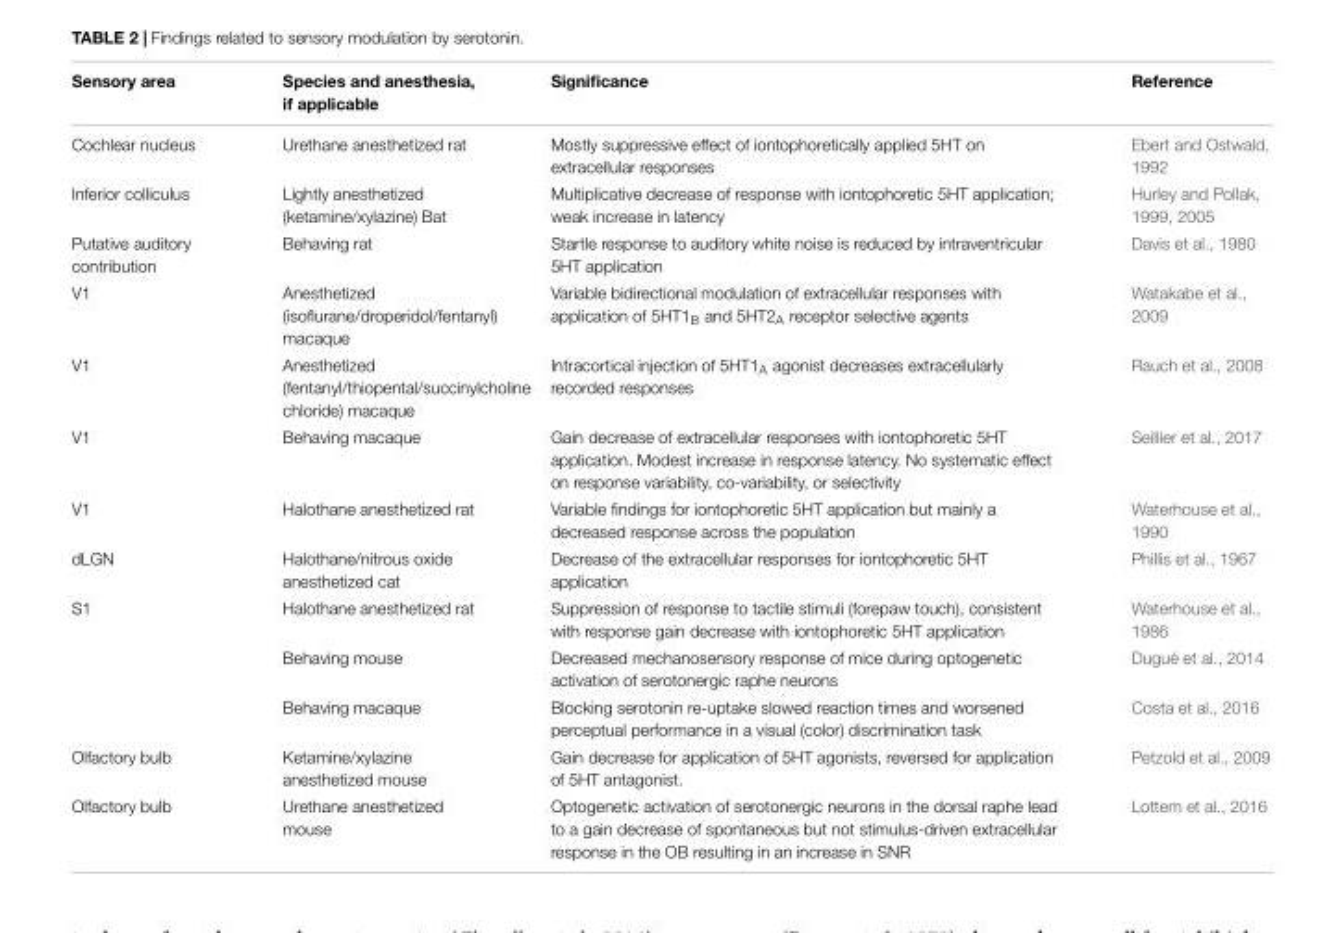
<table><thead><tr><td>Sensory area</td><td>Species and anesthesia, if applicable</td><td>Significance</td><td>Reference</td></tr></thead><tbody><tr><td>Cochlear nucleus</td><td>Urethane anesthetized rat</td><td>Mostly suppressive effect of iontophoretically applied 5HT on extracellular responses</td><td>Ebert and Ostwald, 1992</td></tr><tr><td>Inferior colliculus</td><td>Lightly anesthetized (ketamine/xylazine) Bat</td><td>Multiplicative decrease of response with iontophoretic 5HT application; weak increase in latency</td><td>Hurley and Pollak, 1999, 2005</td></tr><tr><td>Putative auditory contribution</td><td>Behaving rat</td><td>Startle response to auditory white noise is reduced by intraventricular 5HT application</td><td>Davis et al., 1980</td></tr><tr><td>V1</td><td>Anesthetized (isoflurane/droperidol/fentanyl) macaque</td><td>Variable bidirectional modulation of extracellular responses with application of 5HT1<sub>B</sub> and 5HT2<sub>A</sub> receptor selective agents</td><td>Watakabe et al., 2009</td></tr><tr><td>V1</td><td>Anesthetized (fentanyl/thiopental/succinylcholine chloride) macaque</td><td>Intracortical injection of 5HT1<sub>A</sub> agonist decreases extracellularly recorded responses</td><td>Rauch et al., 2008</td></tr><tr><td>V1</td><td>Behaving macaque</td><td>Gain decrease of extracellular responses with iontophoretic 5HT application. Modest increase in response latency. No systematic effect on response variability, co-variability, or selectivity</td><td>Seillier et al., 2017</td></tr><tr><td>V1</td><td>Halothane anesthetized rat</td><td>Variable findings for iontophoretic 5HT application but mainly a decreased response across the population</td><td>Waterhouse et al., 1990</td></tr><tr><td>dLGN</td><td>Halothane/nitrous oxide anesthetized cat</td><td>Decrease of the extracellular responses for iontophoretic 5HT application</td><td>Phillis et al., 1967</td></tr><tr><td rowspan="3">S1</td><td>Halothane anesthetized rat</td><td>Suppression of response to tactile stimuli (forepaw touch), consistent with response gain decrease with iontophoretic 5HT application</td><td>Waterhouse et al., 1986</td></tr><tr><td>Behaving mouse</td><td>Decreased mechanosensory response of mice during optogenetic activation of serotonergic raphe neurons</td><td>Dugué et al., 2014</td></tr><tr><td>Behaving macaque</td><td>Blocking serotonin re-uptake slowed reaction times and worsened perceptual performance in a visual (color) discrimination task</td><td>Costa et al., 2016</td></tr><tr><td>Olfactory bulb</td><td>Ketamine/xylazine anesthetized mouse</td><td>Gain decrease for application of 5HT agonists, reversed for application of 5HT antagonist.</td><td>Petzold et al., 2009</td></tr><tr><td>Olfactory bulb</td><td>Urethane anesthetized mouse</td><td>Optogenetic activation of serotonergic neurons in the dorsal raphe lead to a gain decrease of spontaneous but not stimulus-driven extracellular response in the OB resulting in an increase in SNR</td><td>Lottem et al., 2016</td></tr></tbody></table>